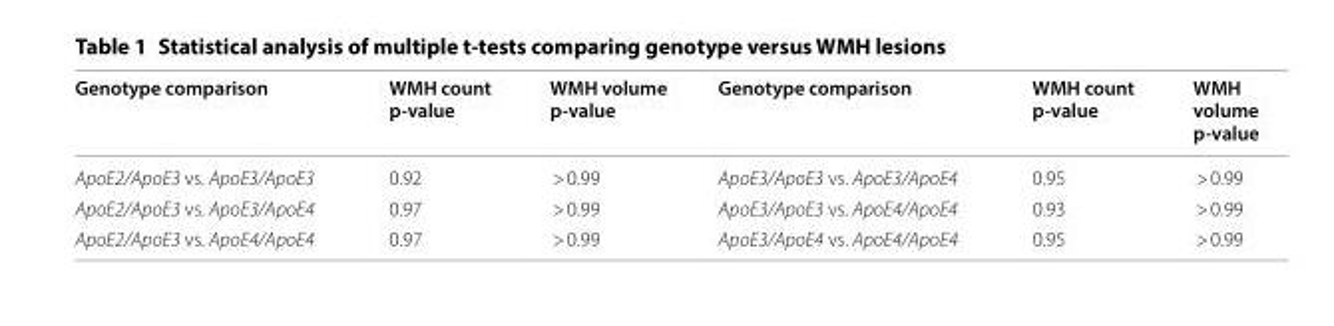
<table><thead><tr><td>Genotype comparison</td><td>WMH count p-value</td><td>WMH volume p-value</td><td>Genotype comparison</td><td>WMH count p-value</td><td>WMH volume p-value</td></tr></thead><tbody><tr><td>ApoE2/ApoE3 vs. ApoE3/ApoE3</td><td>0.92</td><td>&gt; 0.99</td><td>ApoE3/ApoE3 vs. ApoE3/ApoE4</td><td>0.95</td><td>&gt; 0.99</td></tr><tr><td>ApoE2/ApoE3 vs. ApoE3/ApoE4</td><td>0.97</td><td>&gt; 0.99</td><td>ApoE3/ApoE3 vs. ApoE4/ApoE4</td><td>0.93</td><td>&gt; 0.99</td></tr><tr><td>ApoE2/ApoE3 vs. ApoE4/ApoE4</td><td>0.97</td><td>&gt; 0.99</td><td>ApoE3/ApoE4 vs. ApoE4/ApoE4</td><td>0.95</td><td>&gt; 0.99</td></tr></tbody></table>